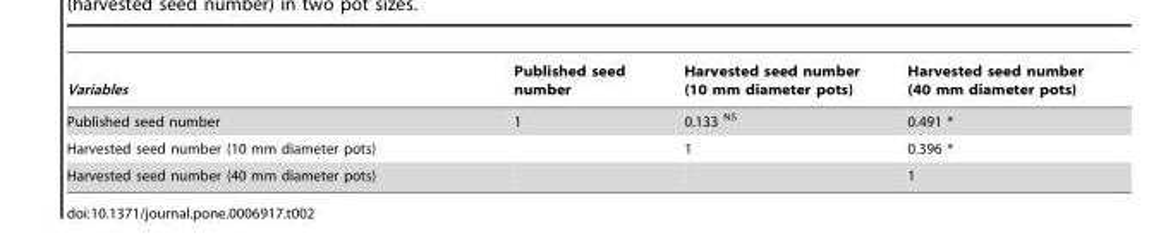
<table><thead><tr><td>Variables</td><td>Published seed number</td><td>Harvested seed number (10 mm diameter pots)</td><td>Harvested seed number (40 mm diameter pots)</td></tr></thead><tbody><tr><td>Published seed number</td><td>1</td><td>0.133 <sup>NS</sup></td><td>0.491 *</td></tr><tr><td>Harvested seed number (10 mm diameter pots)</td><td></td><td>1</td><td>0.396 *</td></tr><tr><td>Harvested seed number (40 mm diameter pots)</td><td></td><td></td><td>1</td></tr></tbody></table>